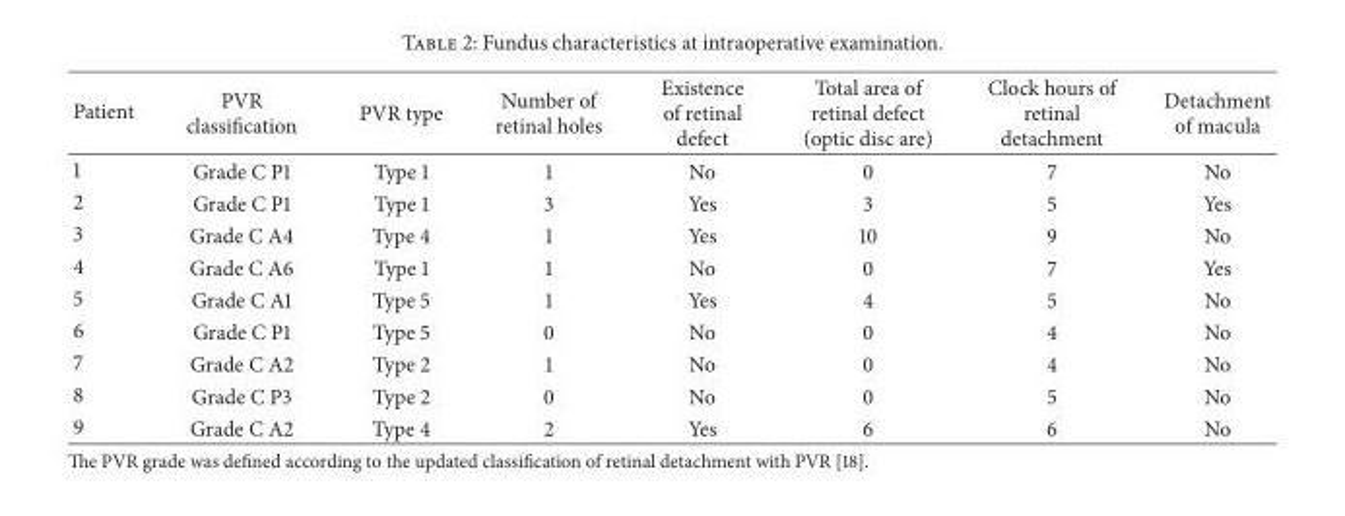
<table><thead><tr><td>Patient</td><td>PVR classification</td><td>PVR type</td><td>Number of retinal holes</td><td>Existence of retinal defect</td><td>Total area of retinal defect (optic disc are)</td><td>Clock hours of retinal detachment</td><td>Detachment of macula</td></tr></thead><tbody><tr><td>1</td><td>Grade C P1</td><td>Type 1</td><td>1</td><td>No</td><td>0</td><td>7</td><td>No</td></tr><tr><td>2</td><td>Grade C P1</td><td>Type 1</td><td>3</td><td>Yes</td><td>3</td><td>5</td><td>Yes</td></tr><tr><td>3</td><td>Grade C A4</td><td>Type 4</td><td>1</td><td>Yes</td><td>10</td><td>9</td><td>No</td></tr><tr><td>4</td><td>Grade C A6</td><td>Type 1</td><td>1</td><td>No</td><td>0</td><td>7</td><td>Yes</td></tr><tr><td>5</td><td>Grade C A1</td><td>Type 5</td><td>1</td><td>Yes</td><td>4</td><td>5</td><td>No</td></tr><tr><td>6</td><td>Grade C P1</td><td>Type 5</td><td>0</td><td>No</td><td>0</td><td>4</td><td>No</td></tr><tr><td>7</td><td>Grade C A2</td><td>Type 2</td><td>1</td><td>No</td><td>0</td><td>4</td><td>No</td></tr><tr><td>8</td><td>Grade C P3</td><td>Type 2</td><td>0</td><td>No</td><td>0</td><td>5</td><td>No</td></tr><tr><td>9</td><td>Grade C A2</td><td>Type 4</td><td>2</td><td>Yes</td><td>6</td><td>6</td><td>No</td></tr></tbody></table>